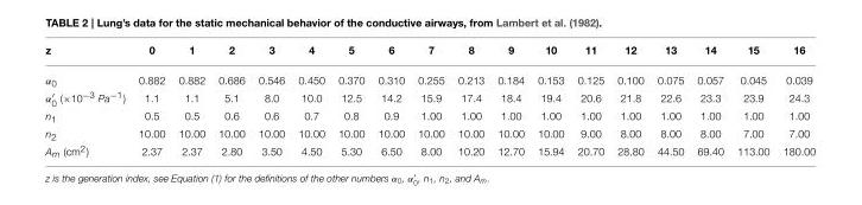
<table><thead><tr><td>z</td><td>0</td><td>1</td><td>2</td><td>3</td><td>4</td><td>5</td><td>6</td><td>7</td><td>8</td><td>9</td><td>10</td><td>11</td><td>12</td><td>13</td><td>14</td><td>15</td><td>16</td></tr></thead><tbody><tr><td>α<sub>0</sub></td><td>0.882</td><td>0.882</td><td>0.686</td><td>0.546</td><td>0.450</td><td>0.370</td><td>0.310</td><td>0.255</td><td>0.213</td><td>0.184</td><td>0.153</td><td>0.125</td><td>0.100</td><td>0.075</td><td>0.057</td><td>0.045</td><td>0.039</td></tr><tr><td>α′ <sub>0</sub> (×10<sup>−3</sup> Pa<sup>−1</sup>)</td><td>1.1</td><td>1.1</td><td>5.1</td><td>8.0</td><td>10.0</td><td>12.5</td><td>14.2</td><td>15.9</td><td>17.4</td><td>18.4</td><td>19.4</td><td>20.6</td><td>21.8</td><td>22.6</td><td>23.3</td><td>23.9</td><td>24.3</td></tr><tr><td>n<sub>1</sub></td><td>0.5</td><td>0.5</td><td>0.6</td><td>0.6</td><td>0.7</td><td>0.8</td><td>0.9</td><td>1.00</td><td>1.00</td><td>1.00</td><td>1.00</td><td>1.00</td><td>1.00</td><td>1.00</td><td>1.00</td><td>1.00</td><td>1.00</td></tr><tr><td>n<sub>2</sub></td><td>10.00</td><td>10.00</td><td>10.00</td><td>10.00</td><td>10.00</td><td>10.00</td><td>10.00</td><td>10.00</td><td>10.00</td><td>10.00</td><td>10.00</td><td>9.00</td><td>8.00</td><td>8.00</td><td>8.00</td><td>7.00</td><td>7.00</td></tr><tr><td>A<sub>m</sub> (cm<sup>2</sup>)</td><td>2.37</td><td>2.37</td><td>2.80</td><td>3.50</td><td>4.50</td><td>5.30</td><td>6.50</td><td>8.00</td><td>10.20</td><td>12.70</td><td>15.94</td><td>20.70</td><td>28.80</td><td>44.50</td><td>69.40</td><td>113.00</td><td>180.00</td></tr></tbody></table>